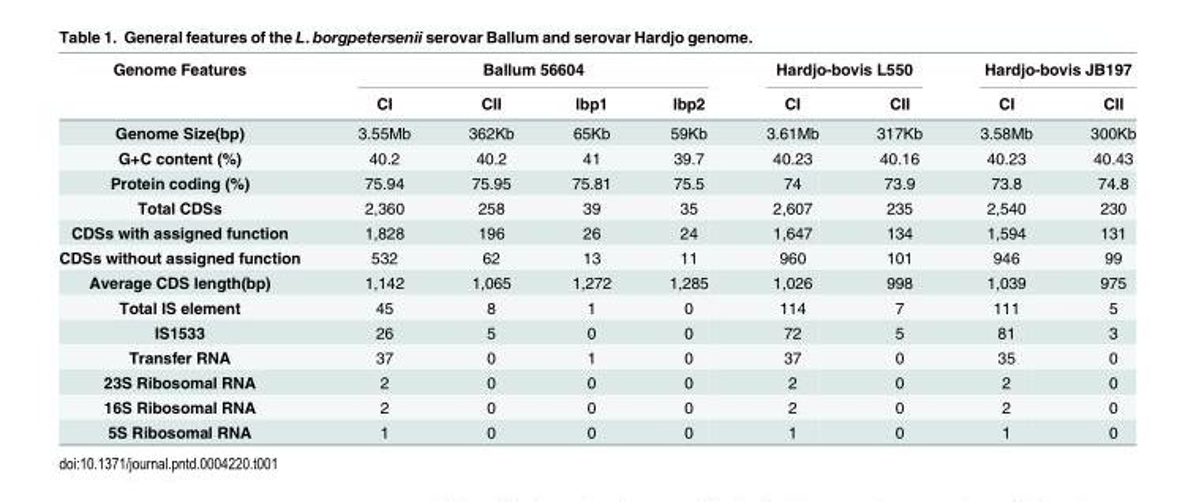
<table><thead><tr><td rowspan="2">Genome Features</td><td colspan="4">Ballum 56604</td><td colspan="2">Hardjo-bovis L550</td><td colspan="2">Hardjo-bovis JB197</td></tr><tr><td>CI</td><td>CII</td><td>lbp1</td><td>lbp2</td><td>CI</td><td>CII</td><td>CI</td><td>CII</td></tr></thead><tbody><tr><td>Genome Size(bp)</td><td>3.55Mb</td><td>362Kb</td><td>65Kb</td><td>59Kb</td><td>3.61Mb</td><td>317Kb</td><td>3.58Mb</td><td>300Kb</td></tr><tr><td>G+C content (%)</td><td>40.2</td><td>40.2</td><td>41</td><td>39.7</td><td>40.23</td><td>40.16</td><td>40.23</td><td>40.43</td></tr><tr><td>Protein coding (%)</td><td>75.94</td><td>75.95</td><td>75.81</td><td>75.5</td><td>74</td><td>73.9</td><td>73.8</td><td>74.8</td></tr><tr><td>Total CDSs</td><td>2,360</td><td>258</td><td>39</td><td>35</td><td>2,607</td><td>235</td><td>2,540</td><td>230</td></tr><tr><td>CDSs with assigned function</td><td>1,828</td><td>196</td><td>26</td><td>24</td><td>1,647</td><td>134</td><td>1,594</td><td>131</td></tr><tr><td>CDSs without assigned function</td><td>532</td><td>62</td><td>13</td><td>11</td><td>960</td><td>101</td><td>946</td><td>99</td></tr><tr><td>Average CDS length(bp)</td><td>1,142</td><td>1,065</td><td>1,272</td><td>1,285</td><td>1,026</td><td>998</td><td>1,039</td><td>975</td></tr><tr><td>Total IS element</td><td>45</td><td>8</td><td>1</td><td>0</td><td>114</td><td>7</td><td>111</td><td>5</td></tr><tr><td>IS1533</td><td>26</td><td>5</td><td>0</td><td>0</td><td>72</td><td>5</td><td>81</td><td>3</td></tr><tr><td>Transfer RNA</td><td>37</td><td>0</td><td>1</td><td>0</td><td>37</td><td>0</td><td>35</td><td>0</td></tr><tr><td>23S Ribosomal RNA</td><td>2</td><td>0</td><td>0</td><td>0</td><td>2</td><td>0</td><td>2</td><td>0</td></tr><tr><td>16S Ribosomal RNA</td><td>2</td><td>0</td><td>0</td><td>0</td><td>2</td><td>0</td><td>2</td><td>0</td></tr><tr><td>5S Ribosomal RNA</td><td>1</td><td>0</td><td>0</td><td>0</td><td>1</td><td>0</td><td>1</td><td>0</td></tr></tbody></table>